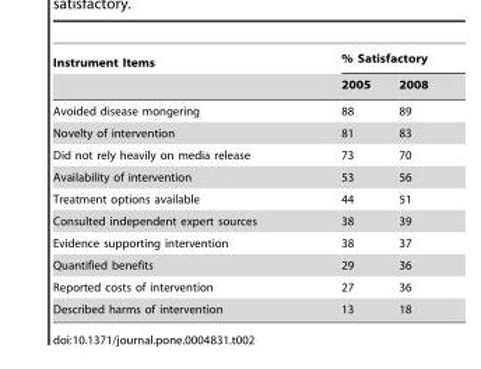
<table><thead><tr><td rowspan="2">Instrument Items</td><td colspan="2">% Satisfactory</td></tr><tr><td>2005</td><td>2008</td></tr></thead><tbody><tr><td>Avoided disease mongering</td><td>88</td><td>89</td></tr><tr><td>Novelty of intervention</td><td>81</td><td>83</td></tr><tr><td>Did not rely heavily on media release</td><td>73</td><td>70</td></tr><tr><td>Availability of intervention</td><td>53</td><td>56</td></tr><tr><td>Treatment options available</td><td>44</td><td>51</td></tr><tr><td>Consulted independent expert sources</td><td>38</td><td>39</td></tr><tr><td>Evidence supporting intervention</td><td>38</td><td>37</td></tr><tr><td>Quantified benefits</td><td>29</td><td>36</td></tr><tr><td>Reported costs of intervention</td><td>27</td><td>36</td></tr><tr><td>Described harms of intervention</td><td>13</td><td>18</td></tr></tbody></table>